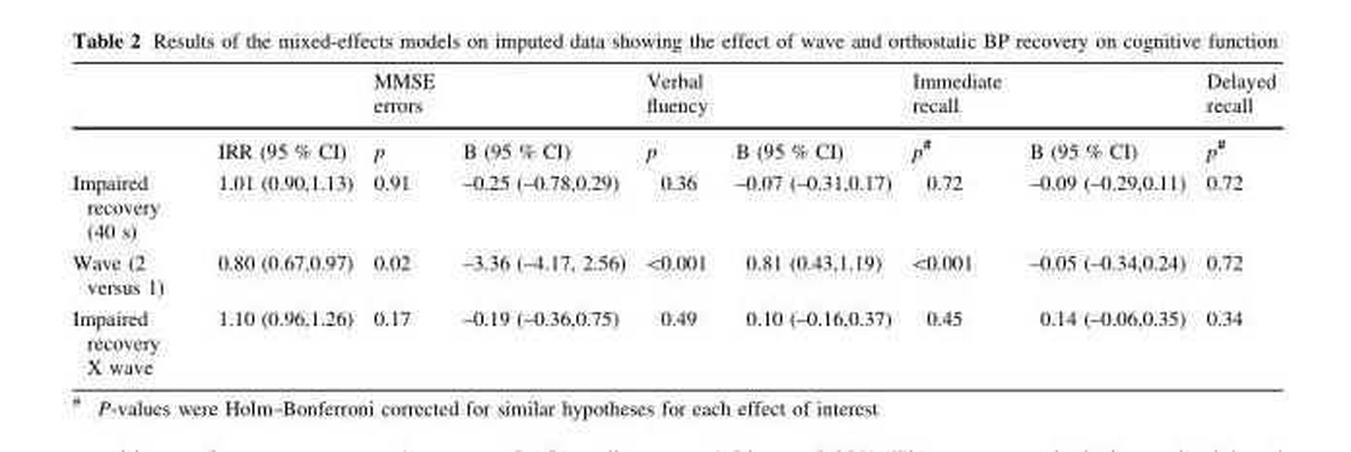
<table><thead><tr><td></td><td></td><td>MMSE errors</td><td></td><td>Verbal fluency</td><td></td><td>Immediate recall</td><td></td><td>Delayed recall</td></tr></thead><tbody><tr><td></td><td>IRR (95 % CI)</td><td>p</td><td>B (95 % CI)</td><td>p</td><td>B (95 % CI)</td><td>p<sup>#</sup></td><td>B (95 % CI)</td><td>p<sup>#</sup></td></tr><tr><td>Impaired recovery (40 s)</td><td>1.01 (0.90,1.13)</td><td>0.91</td><td>–0.25 (–0.78,0.29)</td><td>0.36</td><td>–0.07 (–0.31,0.17)</td><td>0.72</td><td>–0.09 (–0.29,0.11)</td><td>0.72</td></tr><tr><td>Wave (2 versus 1)</td><td>0.80 (0.67,0.97)</td><td>0.02</td><td>–3.36 (–4.17, 2.56)</td><td>&lt;0.001</td><td>0.81 (0.43,1.19)</td><td>&lt;0.001</td><td>–0.05 (–0.34,0.24)</td><td>0.72</td></tr><tr><td>Impaired recovery X wave</td><td>1.10 (0.96,1.26)</td><td>0.17</td><td>–0.19 (–0.36,0.75)</td><td>0.49</td><td>0.10 (–0.16,0.37)</td><td>0.45</td><td>0.14 (–0.06,0.35)</td><td>0.34</td></tr></tbody></table>